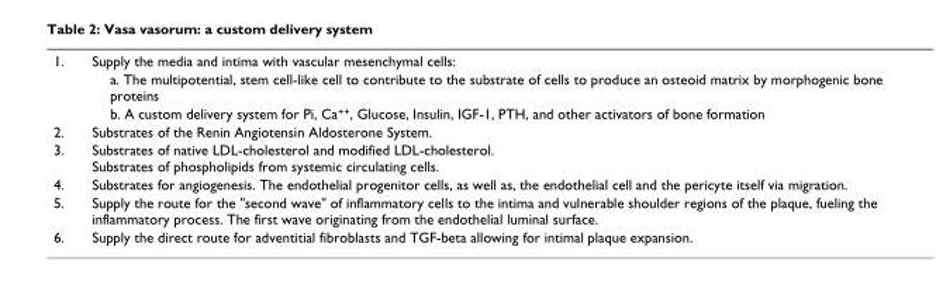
<table><tbody><tr><td rowspan="3">1.</td><td>Supply the media and intima with vascular mesenchymal cells:</td></tr><tr><td>a. The multipotential, stem cell-like cell to contribute to the substrate of cells to produce an osteoid matrix by morphogenic bone proteins</td></tr><tr><td>b. A custom delivery system for Pi, Ca++, Glucose, Insulin, IGF-1, PTH, and other activators of bone formation</td></tr><tr><td>2.</td><td>Substrates of the Renin Angiotensin Aldosterone System.</td></tr><tr><td>3.</td><td>Substrates of native LDL-cholesterol and modified LDL-cholesterol. Substrates of phospholipids from systemic circulating cells.</td></tr><tr><td>4.</td><td>Substrates for angiogenesis. The endothelial progenitor cells, as well as, the endothelial cell and the pericyte itself via migration.</td></tr><tr><td>5.</td><td>Supply the route for the &quot;second wave&quot; of inflammatory cells to the intima and vulnerable shoulder regions of the plaque, fueling the inflammatory process. The first wave originating from the endothelial luminal surface.</td></tr><tr><td>6.</td><td>Supply the direct route for adventitial fibroblasts and TGF-beta allowing for intimal plaque expansion.</td></tr></tbody></table>